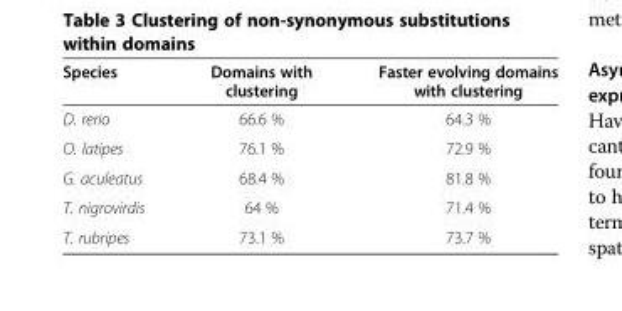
<table><thead><tr><td>Species</td><td>Domains with clustering</td><td>Faster evolving domains with clustering</td></tr></thead><tbody><tr><td>D. rerio</td><td>66.6 %</td><td>64.3 %</td></tr><tr><td>O. latipes</td><td>76.1 %</td><td>72.9 %</td></tr><tr><td>G. aculeatus</td><td>68.4 %</td><td>81.8 %</td></tr><tr><td>T. nigrovirdis</td><td>64 %</td><td>71.4 %</td></tr><tr><td>T. rubripes</td><td>73.1 %</td><td>73.7 %</td></tr></tbody></table>